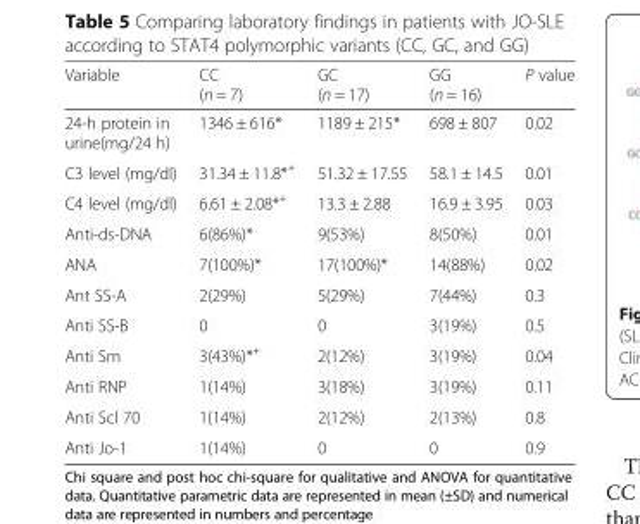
<table><thead><tr><td>Variable</td><td>CC (n = 7)</td><td>GC (n = 17)</td><td>GG (n = 16)</td><td>P value</td></tr></thead><tbody><tr><td>24-h protein in urine(mg/24 h)</td><td>1346 ± 616*</td><td>1189 ± 215*</td><td>698 ± 807</td><td>0.02</td></tr><tr><td>C3 level (mg/dl)</td><td>31.34 ± 11.8*<sup>+</sup></td><td>51.32 ± 17.55</td><td>58.1 ± 14.5</td><td>0.01</td></tr><tr><td>C4 level (mg/dl)</td><td>6.61 ± 2.08*<sup>+</sup></td><td>13.3 ± 2.88</td><td>16.9 ± 3.95</td><td>0.03</td></tr><tr><td>Anti-ds-DNA</td><td>6(86%)*</td><td>9(53%)</td><td>8(50%)</td><td>0.01</td></tr><tr><td>ANA</td><td>7(100%)*</td><td>17(100%)*</td><td>14(88%)</td><td>0.02</td></tr><tr><td>Ant SS-A</td><td>2(29%)</td><td>5(29%)</td><td>7(44%)</td><td>0.3</td></tr><tr><td>Anti SS-B</td><td>0</td><td>0</td><td>3(19%)</td><td>0.5</td></tr><tr><td>Anti Sm</td><td>3(43%)*<sup>+</sup></td><td>2(12%)</td><td>3(19%)</td><td>0.04</td></tr><tr><td>Anti RNP</td><td>1(14%)</td><td>3(18%)</td><td>3(19%)</td><td>0.11</td></tr><tr><td>Anti Scl 70</td><td>1(14%)</td><td>2(12%)</td><td>2(13%)</td><td>0.8</td></tr><tr><td>Anti Jo-1</td><td>1(14%)</td><td>0</td><td>0</td><td>0.9</td></tr></tbody></table>